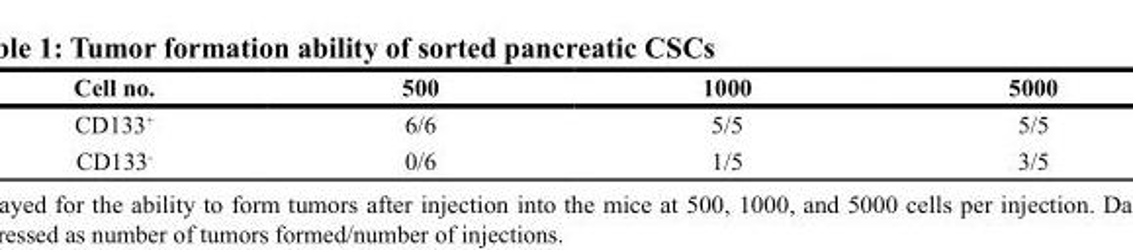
<table><thead><tr><td>Cell no.</td><td>500</td><td>1000</td><td>5000</td></tr></thead><tbody><tr><td>CD133<sup>+</sup></td><td>6/6</td><td>5/5</td><td>5/5</td></tr><tr><td>CD133<sup>-</sup></td><td>0/6</td><td>1/5</td><td>3/5</td></tr></tbody></table>